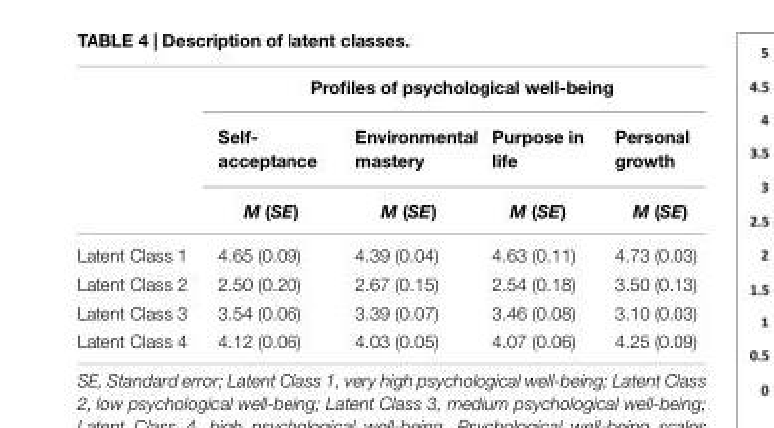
<table><thead><tr><td rowspan="3"></td><td colspan="4">Profiles of psychological well-being</td></tr><tr><td rowspan="2">Self- acceptance M (SE)</td><td rowspan="2">Environmental mastery M (SE)</td><td rowspan="2">Purpose in life M (SE)</td><td rowspan="2">Personal growth M (SE)</td></tr><tr></tr></thead><tbody><tr><td>Latent Class 1</td><td>4.65 (0.09)</td><td>4.39 (0.04)</td><td>4.63 (0.11)</td><td>4.73 (0.03)</td></tr><tr><td>Latent Class 2</td><td>2.50 (0.20)</td><td>2.67 (0.15)</td><td>2.54 (0.18)</td><td>3.50 (0.13)</td></tr><tr><td>Latent Class 3</td><td>3.54 (0.06)</td><td>3.39 (0.07)</td><td>3.46 (0.08)</td><td>3.10 (0.03)</td></tr><tr><td>Latent Class 4</td><td>4.12 (0.06)</td><td>4.03 (0.05)</td><td>4.07 (0.06)</td><td>4.25 (0.09)</td></tr></tbody></table>